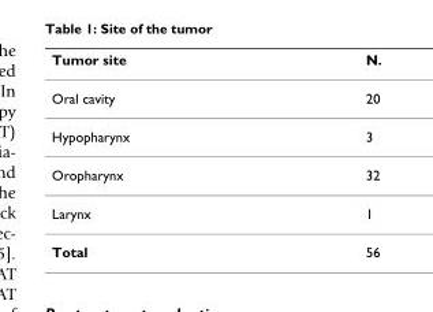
<table><thead><tr><td>Tumor site</td><td>N.</td></tr></thead><tbody><tr><td>Oral cavity</td><td>20</td></tr><tr><td>Hypopharynx</td><td>3</td></tr><tr><td>Oropharynx</td><td>32</td></tr><tr><td>Larynx</td><td>1</td></tr><tr><td>Total</td><td>56</td></tr></tbody></table>